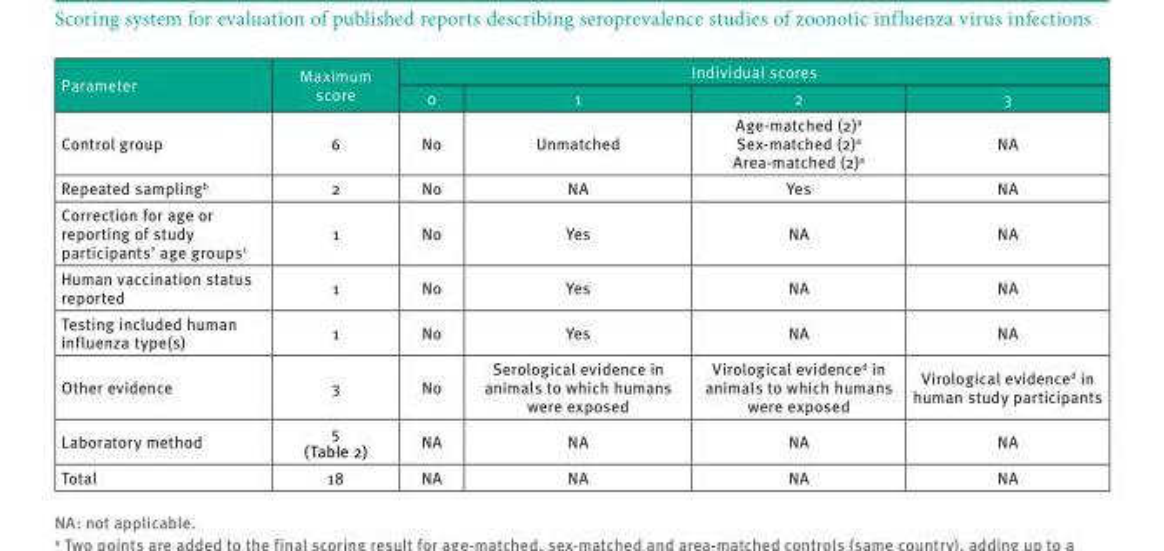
<table><thead><tr><td rowspan="2">Parameter</td><td rowspan="2">Maximum score</td><td colspan="4">Individual scores</td></tr><tr><td>0</td><td>1</td><td>2</td><td>3</td></tr></thead><tbody><tr><td>Control group</td><td>6</td><td>No</td><td>Unmatched</td><td>Age-matched (2)<sup>a</sup> Sex-matched (2)<sup>a</sup> Area-matched (2)<sup>a</sup></td><td>NA</td></tr><tr><td>Repeated sampling<sup>b</sup></td><td>2</td><td>No</td><td>NA</td><td>Yes</td><td>NA</td></tr><tr><td>Correction for age or reporting of study participants’ age groups<sup>c</sup></td><td>1</td><td>No</td><td>Yes</td><td>NA</td><td>NA</td></tr><tr><td>Human vaccination status reported</td><td>1</td><td>No</td><td>Yes</td><td>NA</td><td>NA</td></tr><tr><td>Testing included human influenza type(s)</td><td>1</td><td>No</td><td>Yes</td><td>NA</td><td>NA</td></tr><tr><td>Other evidence</td><td>3</td><td>No</td><td>Serological evidence in animals to which humans were exposed</td><td>Virological evidence<sup>d</sup> in animals to which humans were exposed</td><td>Virological evidence<sup>d</sup> in human study participants</td></tr><tr><td>Laboratory method</td><td>5 (Table 2)</td><td>NA</td><td>NA</td><td>NA</td><td>NA</td></tr><tr><td>Total</td><td>18</td><td>NA</td><td>NA</td><td>NA</td><td>NA</td></tr></tbody></table>